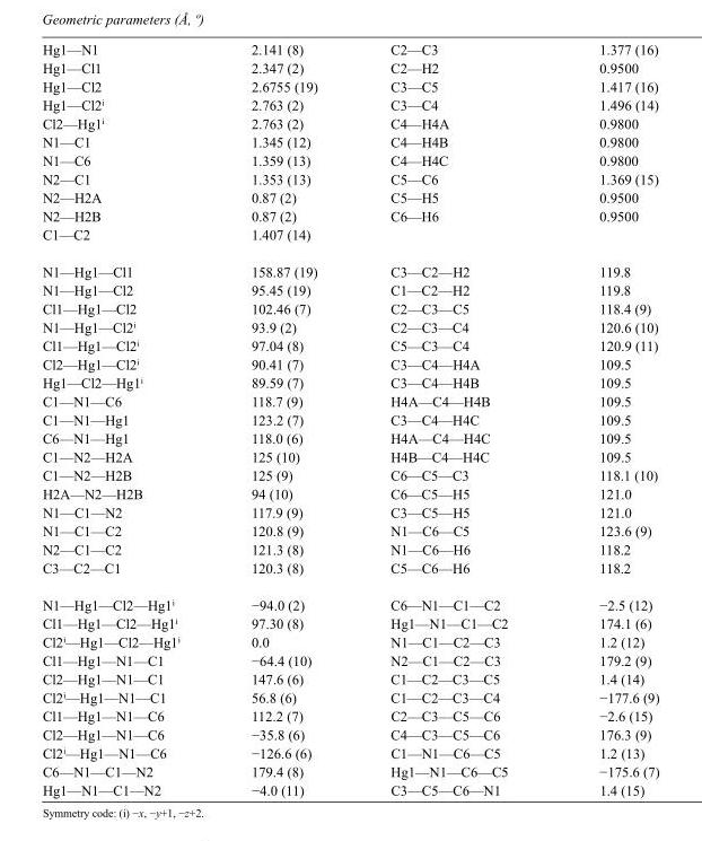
<table><tbody><tr><td>Hg1—N1</td><td>2.141 (8)</td><td>C2—C3</td><td>1.377 (16)</td></tr><tr><td>Hg1—Cl1</td><td>2.347 (2)</td><td>C2—H2</td><td>0.9500</td></tr><tr><td>Hg1—Cl2</td><td>2.6755 (19)</td><td>C3—C5</td><td>1.417 (16)</td></tr><tr><td>Hg1—Cl2<sup>i</sup></td><td>2.763 (2)</td><td>C3—C4</td><td>1.496 (14)</td></tr><tr><td>Cl2—Hg1<sup>i</sup></td><td>2.763 (2)</td><td>C4—H4A</td><td>0.9800</td></tr><tr><td>N1—C1</td><td>1.345 (12)</td><td>C4—H4B</td><td>0.9800</td></tr><tr><td>N1—C6</td><td>1.359 (13)</td><td>C4—H4C</td><td>0.9800</td></tr><tr><td>N2—C1</td><td>1.353 (13)</td><td>C5—C6</td><td>1.369 (15)</td></tr><tr><td>N2—H2A</td><td>0.87 (2)</td><td>C5—H5</td><td>0.9500</td></tr><tr><td>N2—H2B</td><td>0.87 (2)</td><td>C6—H6</td><td>0.9500</td></tr><tr><td>C1—C2</td><td>1.407 (14)</td><td></td><td></td></tr><tr><td>N1—Hg1—Cl1</td><td>158.87 (19)</td><td>C3—C2—H2</td><td>119.8</td></tr><tr><td>N1—Hg1—Cl2</td><td>95.45 (19)</td><td>C1—C2—H2</td><td>119.8</td></tr><tr><td>Cl1—Hg1—Cl2</td><td>102.46 (7)</td><td>C2—C3—C5</td><td>118.4 (9)</td></tr><tr><td>N1—Hg1—Cl2<sup>i</sup></td><td>93.9 (2)</td><td>C2—C3—C4</td><td>120.6 (10)</td></tr><tr><td>Cl1—Hg1—Cl2<sup>i</sup></td><td>97.04 (8)</td><td>C5—C3—C4</td><td>120.9 (11)</td></tr><tr><td>Cl2—Hg1—Cl2<sup>i</sup></td><td>90.41 (7)</td><td>C3—C4—H4A</td><td>109.5</td></tr><tr><td>Hg1—Cl2—Hg1<sup>i</sup></td><td>89.59 (7)</td><td>C3—C4—H4B</td><td>109.5</td></tr><tr><td>C1—N1—C6</td><td>118.7 (9)</td><td>H4A—C4—H4B</td><td>109.5</td></tr><tr><td>C1—N1—Hg1</td><td>123.2 (7)</td><td>C3—C4—H4C</td><td>109.5</td></tr><tr><td>C6—N1—Hg1</td><td>118.0 (6)</td><td>H4A—C4—H4C</td><td>109.5</td></tr><tr><td>C1—N2—H2A</td><td>125 (10)</td><td>H4B—C4—H4C</td><td>109.5</td></tr><tr><td>C1—N2—H2B</td><td>125 (9)</td><td>C6—C5—C3</td><td>118.1 (10)</td></tr><tr><td>H2A—N2—H2B</td><td>94 (10)</td><td>C6—C5—H5</td><td>121.0</td></tr><tr><td>N1—C1—N2</td><td>117.9 (9)</td><td>C3—C5—H5</td><td>121.0</td></tr><tr><td>N1—C1—C2</td><td>120.8 (9)</td><td>N1—C6—C5</td><td>123.6 (9)</td></tr><tr><td>N2—C1—C2</td><td>121.3 (8)</td><td>N1—C6—H6</td><td>118.2</td></tr><tr><td>C3—C2—C1</td><td>120.3 (8)</td><td>C5—C6—H6</td><td>118.2</td></tr><tr><td>N1—Hg1—Cl2—Hg1<sup>i</sup></td><td>−94.0 (2)</td><td>C6—N1—C1—C2</td><td>−2.5 (12)</td></tr><tr><td>Cl1—Hg1—Cl2—Hg1<sup>i</sup></td><td>97.30 (8)</td><td>Hg1—N1—C1—C2</td><td>174.1 (6)</td></tr><tr><td>Cl2<sup>i</sup>—Hg1—Cl2—Hg1<sup>i</sup></td><td>0.0</td><td>N1—C1—C2—C3</td><td>1.2 (12)</td></tr><tr><td>Cl1—Hg1—N1—C1</td><td>−64.4 (10)</td><td>N2—C1—C2—C3</td><td>179.2 (9)</td></tr><tr><td>Cl2—Hg1—N1—C1</td><td>147.6 (6)</td><td>C1—C2—C3—C5</td><td>1.4 (14)</td></tr><tr><td>Cl2<sup>i</sup>—Hg1—N1—C1</td><td>56.8 (6)</td><td>C1—C2—C3—C4</td><td>−177.6 (9)</td></tr><tr><td>Cl1—Hg1—N1—C6</td><td>112.2 (7)</td><td>C2—C3—C5—C6</td><td>−2.6 (15)</td></tr><tr><td>Cl2—Hg1—N1—C6</td><td>−35.8 (6)</td><td>C4—C3—C5—C6</td><td>176.3 (9)</td></tr><tr><td>Cl2<sup>i</sup>—Hg1—N1—C6</td><td>−126.6 (6)</td><td>C1—N1—C6—C5</td><td>1.2 (13)</td></tr><tr><td>C6—N1—C1—N2</td><td>179.4 (8)</td><td>Hg1—N1—C6—C5</td><td>−175.6 (7)</td></tr><tr><td>Hg1—N1—C1—N2</td><td>−4.0 (11)</td><td>C3—C5—C6—N1</td><td>1.4 (15)</td></tr></tbody></table>